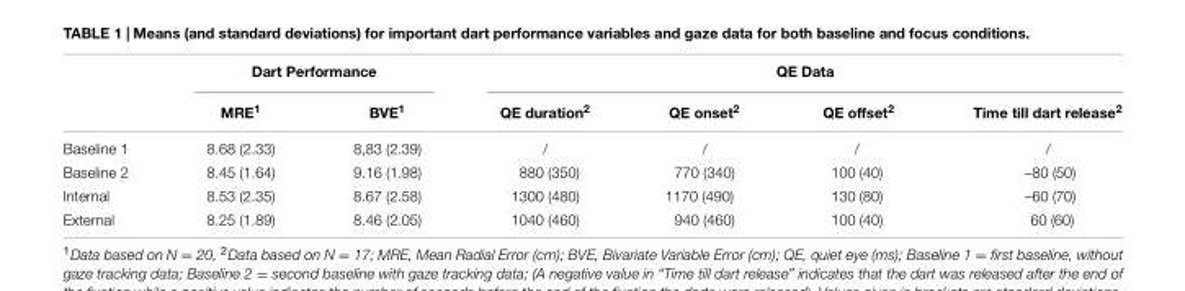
<table><thead><tr><td rowspan="2"></td><td colspan="2">Dart Performance</td><td colspan="4">QE Data</td></tr><tr><td>MRE<sup>1</sup></td><td>BVE<sup>1</sup></td><td>QE duration<sup>2</sup></td><td>QE onset<sup>2</sup></td><td>QE offset<sup>2</sup></td><td>Time till dart release<sup>2</sup></td></tr></thead><tbody><tr><td>Baseline 1</td><td>8.68 (2.33)</td><td>8,83 (2.39)</td><td>/</td><td>/</td><td>/</td><td>/</td></tr><tr><td>Baseline 2</td><td>8.45 (1.64)</td><td>9.16 (1.98)</td><td>880 (350)</td><td>770 (340)</td><td>100 (40)</td><td>–80 (50)</td></tr><tr><td>Internal</td><td>8.53 (2.35)</td><td>8.67 (2.58)</td><td>1300 (480)</td><td>1170 (490)</td><td>130 (80)</td><td>–60 (70)</td></tr><tr><td>External</td><td>8.25 (1.89)</td><td>8.46 (2.05)</td><td>1040 (460)</td><td>940 (460)</td><td>100 (40)</td><td>60 (60)</td></tr></tbody></table>